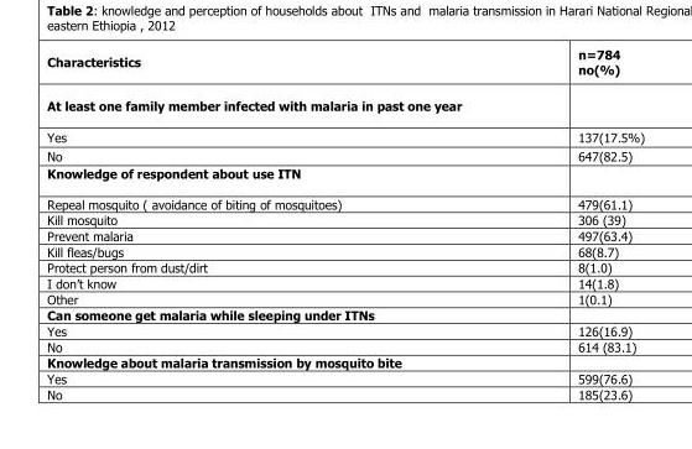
<table><thead><tr><td>Characteristics</td><td>n=784 no(%)</td></tr></thead><tbody><tr><td colspan="2">At least one family member infected with malaria in past one year</td></tr><tr><td>Yes</td><td>137(17.5%)</td></tr><tr><td>No</td><td>647(82.5)</td></tr><tr><td colspan="2">Knowledge of respondent about use ITN</td></tr><tr><td>Repeal mosquito ( avoidance of biting of mosquitoes)</td><td>479(61.1)</td></tr><tr><td>Kill mosquito</td><td>306 (39)</td></tr><tr><td>Prevent malaria</td><td>497(63.4)</td></tr><tr><td>Kill fleas/bugs</td><td>68(8.7)</td></tr><tr><td>Protect person from dust/dirt</td><td>8(1.0)</td></tr><tr><td>I don’t know</td><td>14(1.8)</td></tr><tr><td>Other</td><td>1(0.1)</td></tr><tr><td colspan="2">Can someone get malaria while sleeping under ITNs</td></tr><tr><td>Yes</td><td>126(16.9)</td></tr><tr><td>No</td><td>614 (83.1)</td></tr><tr><td colspan="2">Knowledge about malaria transmission by mosquito bite</td></tr><tr><td>Yes</td><td>599(76.6)</td></tr><tr><td>No</td><td>185(23.6)</td></tr></tbody></table>